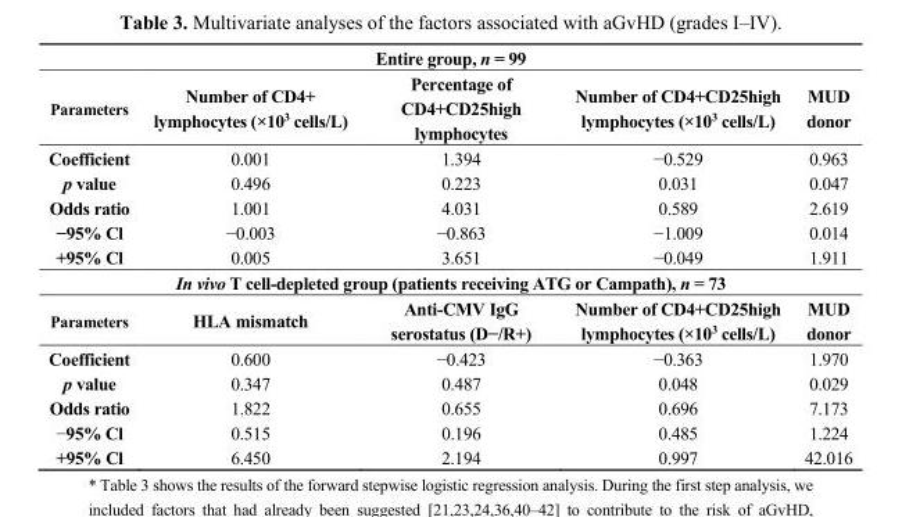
<table><tbody><tr><td colspan="5">Entire group, n = 99</td></tr><tr><td>Parameters</td><td>Number of CD4+ lymphocytes (×10<sup>3</sup> cells/L)</td><td>Percentage of CD4+CD25high lymphocytes</td><td>Number of CD4+CD25high lymphocytes (×10<sup>3</sup> cells/L)</td><td>MUD donor</td></tr><tr><td>Coefficient</td><td>0.001</td><td>1.394</td><td>−0.529</td><td>0.963</td></tr><tr><td>p value</td><td>0.496</td><td>0.223</td><td>0.031</td><td>0.047</td></tr><tr><td>Odds ratio</td><td>1.001</td><td>4.031</td><td>0.589</td><td>2.619</td></tr><tr><td>−95% Cl</td><td>−0.003</td><td>−0.863</td><td>−1.009</td><td>0.014</td></tr><tr><td>+95% Cl</td><td>0.005</td><td>3.651</td><td>−0.049</td><td>1.911</td></tr><tr><td colspan="5">In vivo T cell-depleted group (patients receiving ATG or Campath), n = 73</td></tr><tr><td>Parameters</td><td>HLA mismatch</td><td>Anti-CMV IgG serostatus (D−/R+)</td><td>Number of CD4+CD25high lymphocytes (×10<sup>3</sup> cells/L)</td><td>MUD donor</td></tr><tr><td>Coefficient</td><td>0.600</td><td>−0.423</td><td>−0.363</td><td>1.970</td></tr><tr><td>p value</td><td>0.347</td><td>0.487</td><td>0.048</td><td>0.029</td></tr><tr><td>Odds ratio</td><td>1.822</td><td>0.655</td><td>0.696</td><td>7.173</td></tr><tr><td>−95% Cl</td><td>0.515</td><td>0.196</td><td>0.485</td><td>1.224</td></tr><tr><td>+95% Cl</td><td>6.450</td><td>2.194</td><td>0.997</td><td>42.016</td></tr></tbody></table>